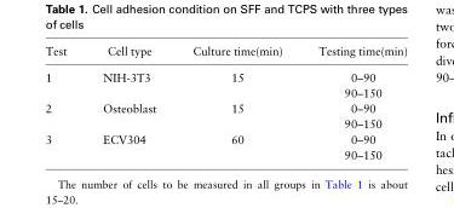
<table><thead><tr><td>Test</td><td>Cell type</td><td>Culture time(min)</td><td>Testing time(min)</td></tr></thead><tbody><tr><td rowspan="2">1</td><td rowspan="2">NIH-3T3</td><td rowspan="2">15</td><td>0–90</td></tr><tr><td>90–150</td></tr><tr><td rowspan="2">2</td><td rowspan="2">Osteoblast</td><td rowspan="2">15</td><td>0–90</td></tr><tr><td>90–150</td></tr><tr><td rowspan="2">3</td><td rowspan="2">ECV304</td><td rowspan="2">60</td><td>0–90</td></tr><tr><td>90–150</td></tr></tbody></table>